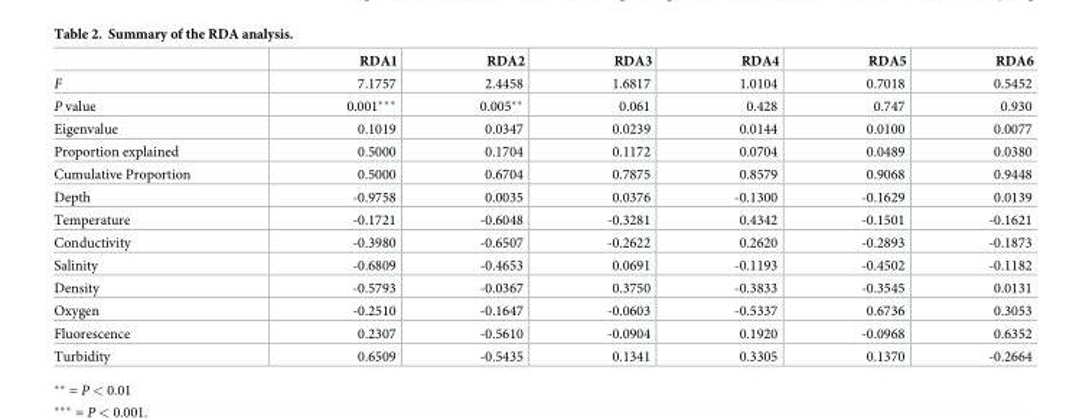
<table><thead><tr><td></td><td>RDA1</td><td>RDA2</td><td>RDA3</td><td>RDA4</td><td>RDA5</td><td>RDA6</td></tr></thead><tbody><tr><td>F</td><td>7.1757</td><td>2.4458</td><td>1.6817</td><td>1.0104</td><td>0.7018</td><td>0.5452</td></tr><tr><td>P value</td><td>0.001***</td><td>0.005**</td><td>0.061</td><td>0.428</td><td>0.747</td><td>0.930</td></tr><tr><td>Eigenvalue</td><td>0.1019</td><td>0.0347</td><td>0.0239</td><td>0.0144</td><td>0.0100</td><td>0.0077</td></tr><tr><td>Proportion explained</td><td>0.5000</td><td>0.1704</td><td>0.1172</td><td>0.0704</td><td>0.0489</td><td>0.0380</td></tr><tr><td>Cumulative Proportion</td><td>0.5000</td><td>0.6704</td><td>0.7875</td><td>0.8579</td><td>0.9068</td><td>0.9448</td></tr><tr><td>Depth</td><td>-0.9758</td><td>0.0035</td><td>0.0376</td><td>-0.1300</td><td>-0.1629</td><td>0.0139</td></tr><tr><td>Temperature</td><td>-0.1721</td><td>-0.6048</td><td>-0.3281</td><td>0.4342</td><td>-0.1501</td><td>-0.1621</td></tr><tr><td>Conductivity</td><td>-0.3980</td><td>-0.6507</td><td>-0.2622</td><td>0.2620</td><td>-0.2893</td><td>-0.1873</td></tr><tr><td>Salinity</td><td>-0.6809</td><td>-0.4653</td><td>0.0691</td><td>-0.1193</td><td>-0.4502</td><td>-0.1182</td></tr><tr><td>Density</td><td>-0.5793</td><td>-0.0367</td><td>0.3750</td><td>-0.3833</td><td>-0.3545</td><td>0.0131</td></tr><tr><td>Oxygen</td><td>-0.2510</td><td>-0.1647</td><td>-0.0603</td><td>-0.5337</td><td>0.6736</td><td>0.3053</td></tr><tr><td>Fluorescence</td><td>0.2307</td><td>-0.5610</td><td>-0.0904</td><td>0.1920</td><td>-0.0968</td><td>0.6352</td></tr><tr><td>Turbidity</td><td>0.6509</td><td>-0.5435</td><td>0.1341</td><td>0.3305</td><td>0.1370</td><td>-0.2664</td></tr></tbody></table>